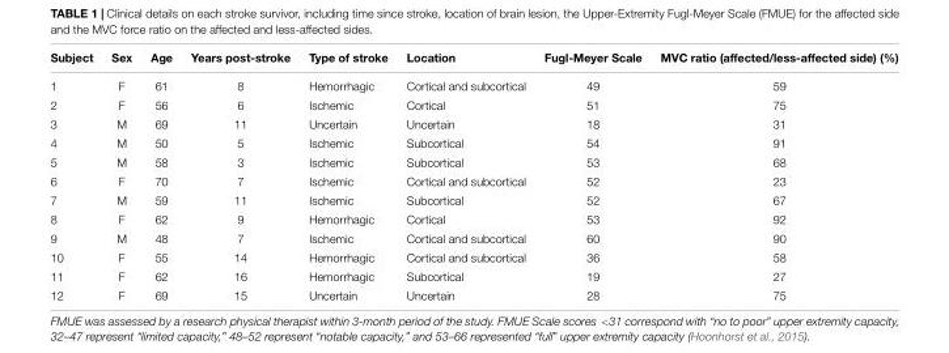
<table><thead><tr><td>Subject</td><td>Sex</td><td>Age</td><td>Years post-stroke</td><td>Type of stroke</td><td>Location</td><td>Fugl-Meyer Scale</td><td>MVC ratio (affected/less-affected side) (%)</td></tr></thead><tbody><tr><td>1</td><td>F</td><td>61</td><td>8</td><td>Hemorrhagic</td><td>Cortical and subcortical</td><td>49</td><td>59</td></tr><tr><td>2</td><td>F</td><td>56</td><td>6</td><td>Ischemic</td><td>Cortical</td><td>51</td><td>75</td></tr><tr><td>3</td><td>M</td><td>69</td><td>11</td><td>Uncertain</td><td>Uncertain</td><td>18</td><td>31</td></tr><tr><td>4</td><td>M</td><td>50</td><td>5</td><td>Ischemic</td><td>Subcortical</td><td>54</td><td>91</td></tr><tr><td>5</td><td>M</td><td>58</td><td>3</td><td>Ischemic</td><td>Subcortical</td><td>53</td><td>68</td></tr><tr><td>6</td><td>F</td><td>70</td><td>7</td><td>Ischemic</td><td>Cortical and subcortical</td><td>52</td><td>23</td></tr><tr><td>7</td><td>M</td><td>59</td><td>11</td><td>Ischemic</td><td>Subcortical</td><td>52</td><td>67</td></tr><tr><td>8</td><td>F</td><td>62</td><td>9</td><td>Hemorrhagic</td><td>Cortical</td><td>53</td><td>92</td></tr><tr><td>9</td><td>M</td><td>48</td><td>7</td><td>Ischemic</td><td>Cortical and subcortical</td><td>60</td><td>90</td></tr><tr><td>10</td><td>F</td><td>55</td><td>14</td><td>Hemorrhagic</td><td>Cortical and subcortical</td><td>36</td><td>58</td></tr><tr><td>11</td><td>F</td><td>62</td><td>16</td><td>Hemorrhagic</td><td>Subcortical</td><td>19</td><td>27</td></tr><tr><td>12</td><td>F</td><td>69</td><td>15</td><td>Uncertain</td><td>Uncertain</td><td>28</td><td>75</td></tr></tbody></table>